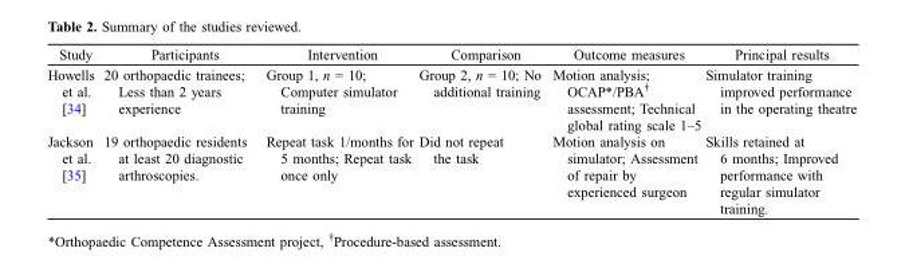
<table><thead><tr><td>Study</td><td>Participants</td><td>Intervention</td><td>Comparison</td><td>Outcome measures</td><td>Principal results</td></tr></thead><tbody><tr><td>Howells et al. [34]</td><td>20 orthopaedic trainees; Less than 2 years experience</td><td>Group 1, n = 10; Computer simulator training</td><td>Group 2, n = 10; No additional training</td><td>Motion analysis; OCAP*/PBA† assessment; Technical global rating scale 1–5</td><td>Simulator training improved performance in the operating theatre</td></tr><tr><td>Jackson et al. [35]</td><td>19 orthopaedic residents at least 20 diagnostic arthroscopies.</td><td>Repeat task 1/months for 5 months; Repeat task once only</td><td>Did not repeat the task</td><td>Motion analysis on simulator; Assessment of repair by experienced surgeon</td><td>Skills retained at 6 months; Improved performance with regular simulator training.</td></tr></tbody></table>